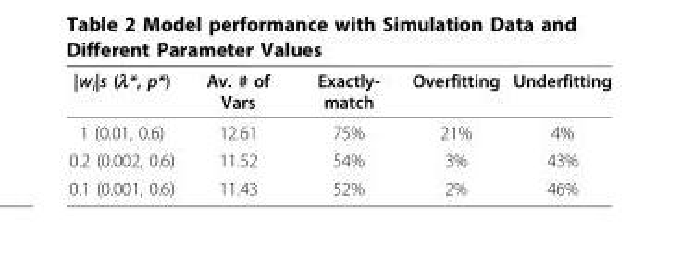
<table><thead><tr><td>|w<sub>i</sub>|s (λ*, p*)</td><td>Av. # of Vars</td><td>Exactly- match</td><td>Overfitting</td><td>Underfitting</td></tr></thead><tbody><tr><td>1 (0.01, 0.6)</td><td>12.61</td><td>75%</td><td>21%</td><td>4%</td></tr><tr><td>0.2 (0.002, 0.6)</td><td>11.52</td><td>54%</td><td>3%</td><td>43%</td></tr><tr><td>0.1 (0.001, 0.6)</td><td>11.43</td><td>52%</td><td>2%</td><td>46%</td></tr></tbody></table>